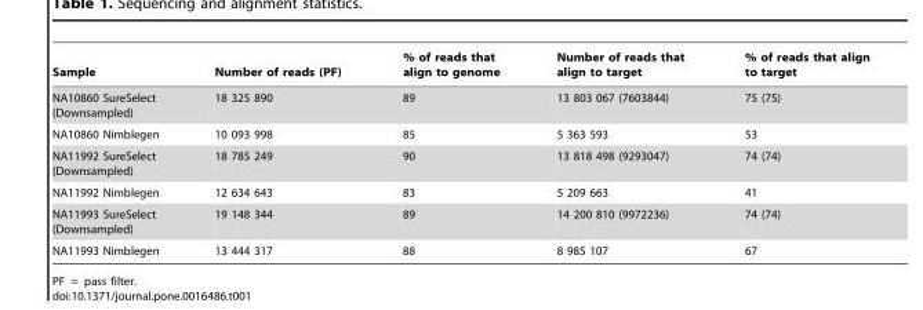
<table><thead><tr><td>Sample</td><td>Number of reads (PF)</td><td>% of reads that align to genome</td><td>Number of reads that align to target</td><td>% of reads that align to target</td></tr></thead><tbody><tr><td>NA10860 SureSelect (Downsampled)</td><td>18 325 890</td><td>89</td><td>13 803 067 (7603844)</td><td>75 (75)</td></tr><tr><td>NA10860 Nimblegen</td><td>10 093 998</td><td>85</td><td>5 363 593</td><td>53</td></tr><tr><td>NA11992 SureSelect (Downsampled)</td><td>18 785 249</td><td>90</td><td>13 818 498 (9293047)</td><td>74 (74)</td></tr><tr><td>NA11992 Nimblegen</td><td>12 634 643</td><td>83</td><td>5 209 663</td><td>41</td></tr><tr><td>NA11993 SureSelect (Downsampled)</td><td>19 148 344</td><td>89</td><td>14 200 810 (9972236)</td><td>74 (74)</td></tr><tr><td>NA11993 Nimblegen</td><td>13 444 317</td><td>88</td><td>8 985 107</td><td>67</td></tr></tbody></table>